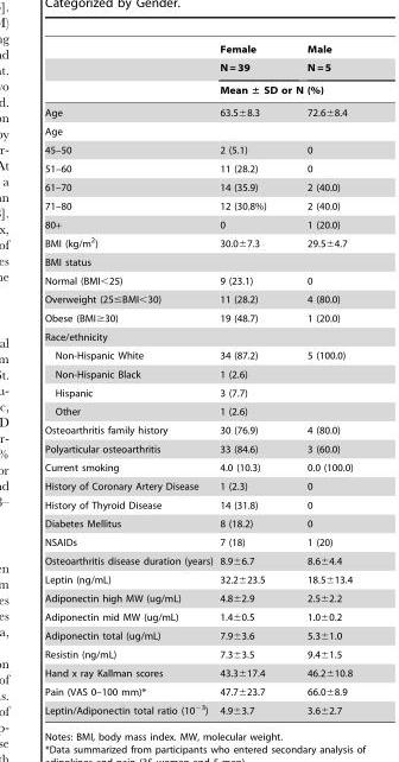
<table><thead><tr><td rowspan="3"></td><td rowspan="2">Female N = 39</td><td rowspan="2">Male N = 5</td></tr><tr></tr><tr><td colspan="2">Mean ± SD or N (%)</td></tr></thead><tbody><tr><td>Age</td><td>63.5±8.3</td><td>72.6±8.4</td></tr><tr><td colspan="3">Age</td></tr><tr><td>45–50</td><td>2 (5.1)</td><td>0</td></tr><tr><td>51–60</td><td>11 (28.2)</td><td>0</td></tr><tr><td>61–70</td><td>14 (35.9)</td><td>2 (40.0)</td></tr><tr><td>71–80</td><td>12 (30.8%)</td><td>2 (40.0)</td></tr><tr><td>80+</td><td>0</td><td>1 (20.0)</td></tr><tr><td>BMI (kg/m<sup>2</sup>)</td><td>30.0±7.3</td><td>29.5±4.7</td></tr><tr><td colspan="3">BMI status</td></tr><tr><td>Normal (BMI&lt;25)</td><td>9 (23.1)</td><td>0</td></tr><tr><td>Overweight (25≤BMI&lt;30)</td><td>11 (28.2)</td><td>4 (80.0)</td></tr><tr><td>Obese (BMI≥30)</td><td>19 (48.7)</td><td>1 (20.0)</td></tr><tr><td colspan="3">Race/ethnicity</td></tr><tr><td>Non-Hispanic White</td><td>34 (87.2)</td><td>5 (100.0)</td></tr><tr><td>Non-Hispanic Black</td><td>1 (2.6)</td><td></td></tr><tr><td>Hispanic</td><td>3 (7.7)</td><td></td></tr><tr><td>Other</td><td>1 (2.6)</td><td></td></tr><tr><td>Osteoarthritis family history</td><td>30 (76.9)</td><td>4 (80.0)</td></tr><tr><td>Polyarticular osteoarthritis</td><td>33 (84.6)</td><td>3 (60.0)</td></tr><tr><td>Current smoking</td><td>4.0 (10.3)</td><td>0.0 (100.0)</td></tr><tr><td>History of Coronary Artery Disease</td><td>1 (2.3)</td><td>0</td></tr><tr><td>History of Thyroid Disease</td><td>14 (31.8)</td><td>0</td></tr><tr><td>Diabetes Mellitus</td><td>8 (18.2)</td><td>0</td></tr><tr><td>NSAIDs</td><td>7 (18)</td><td>1 (20)</td></tr><tr><td>Osteoarthritis disease duration (years)</td><td>8.9±6.7</td><td>8.6±4.4</td></tr><tr><td>Leptin (ng/mL)</td><td>32.2±23.5</td><td>18.5±13.4</td></tr><tr><td>Adiponectin high MW (ug/mL)</td><td>4.8±2.9</td><td>2.5±2.2</td></tr><tr><td>Adiponectin mid MW (ug/mL)</td><td>1.4±0.5</td><td>1.0±0.2</td></tr><tr><td>Adiponectin total (ug/mL)</td><td>7.9±3.6</td><td>5.3±1.0</td></tr><tr><td>Resistin (ng/mL)</td><td>7.3±3.5</td><td>9.4±1.5</td></tr><tr><td>Hand x ray Kallman scores</td><td>43.3±17.4</td><td>46.2±10.8</td></tr><tr><td>Pain (VAS 0–100 mm)*</td><td>47.7±23.7</td><td>66.0±8.9</td></tr><tr><td>Leptin/Adiponectin total ratio (10<sup>−3</sup>)</td><td>4.9±3.7</td><td>3.6±2.7</td></tr></tbody></table>